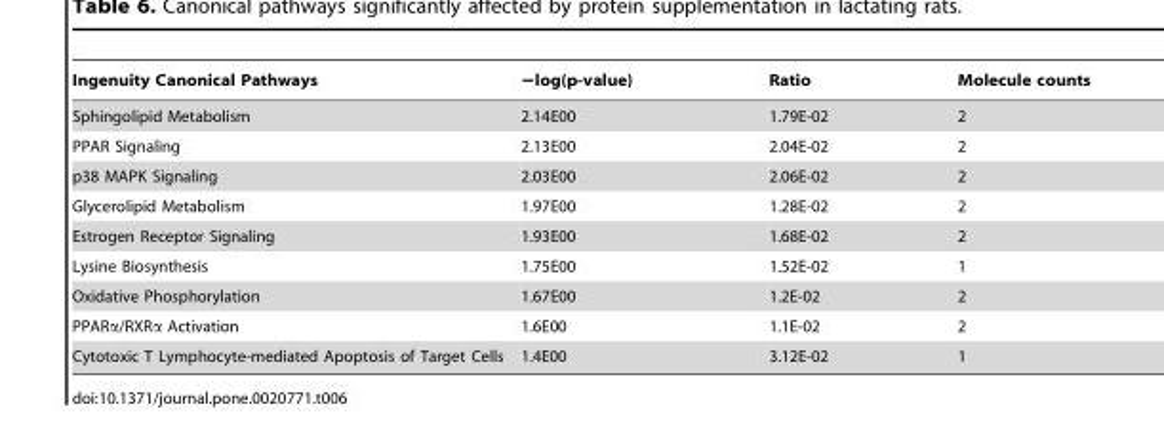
<table><thead><tr><td>Ingenuity Canonical Pathways</td><td>−log(p-value)</td><td>Ratio</td><td>Molecule counts</td></tr></thead><tbody><tr><td>Sphingolipid Metabolism</td><td>2.14E00</td><td>1.79E-02</td><td>2</td></tr><tr><td>PPAR Signaling</td><td>2.13E00</td><td>2.04E-02</td><td>2</td></tr><tr><td>p38 MAPK Signaling</td><td>2.03E00</td><td>2.06E-02</td><td>2</td></tr><tr><td>Glycerolipid Metabolism</td><td>1.97E00</td><td>1.28E-02</td><td>2</td></tr><tr><td>Estrogen Receptor Signaling</td><td>1.93E00</td><td>1.68E-02</td><td>2</td></tr><tr><td>Lysine Biosynthesis</td><td>1.75E00</td><td>1.52E-02</td><td>1</td></tr><tr><td>Oxidative Phosphorylation</td><td>1.67E00</td><td>1.2E-02</td><td>2</td></tr><tr><td>PPARα/RXRα Activation</td><td>1.6E00</td><td>1.1E-02</td><td>2</td></tr><tr><td>Cytotoxic T Lymphocyte-mediated Apoptosis of Target Cells</td><td>1.4E00</td><td>3.12E-02</td><td>1</td></tr></tbody></table>